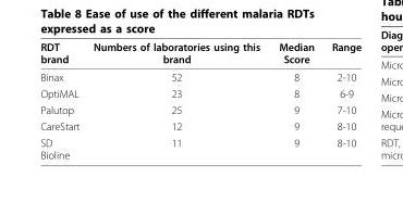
<table><thead><tr><td>RDT brand</td><td>Numbers of laboratories using this brand</td><td>Median Score</td><td>Range</td></tr></thead><tbody><tr><td>Binax</td><td>52</td><td>8</td><td>2-10</td></tr><tr><td>OptiMAL</td><td>23</td><td>8</td><td>6-9</td></tr><tr><td>Palutop</td><td>25</td><td>9</td><td>7-10</td></tr><tr><td>CareStart</td><td>12</td><td>9</td><td>8-10</td></tr><tr><td>SD Bioline</td><td>11</td><td>9</td><td>8-10</td></tr></tbody></table>